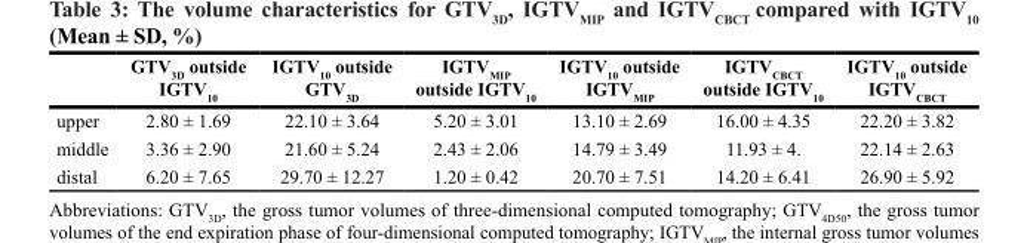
<table><thead><tr><td></td><td>GTV<sub>3D</sub> outside IGTV<sub>10</sub></td><td>IGTV<sub>10</sub> outside GTV<sub>3D</sub></td><td>IGTV<sub>MIP</sub> outside IGTV<sub>10</sub></td><td>IGTV<sub>10</sub> outside IGTV<sub>MIP</sub></td><td>IGTV<sub>CBCT</sub> outside IGTV<sub>10</sub></td><td>IGTV<sub>10</sub> outside IGTV<sub>CBCT</sub></td></tr></thead><tbody><tr><td>upper</td><td>2.80 ± 1.69</td><td>22.10 ± 3.64</td><td>5.20 ± 3.01</td><td>13.10 ± 2.69</td><td>16.00 ± 4.35</td><td>22.20 ± 3.82</td></tr><tr><td>middle</td><td>3.36 ± 2.90</td><td>21.60 ± 5.24</td><td>2.43 ± 2.06</td><td>14.79 ± 3.49</td><td>11.93 ± 4.</td><td>22.14 ± 2.63</td></tr><tr><td>distal</td><td>6.20 ± 7.65</td><td>29.70 ± 12.27</td><td>1.20 ± 0.42</td><td>20.70 ± 7.51</td><td>14.20 ± 6.41</td><td>26.90 ± 5.92</td></tr></tbody></table>